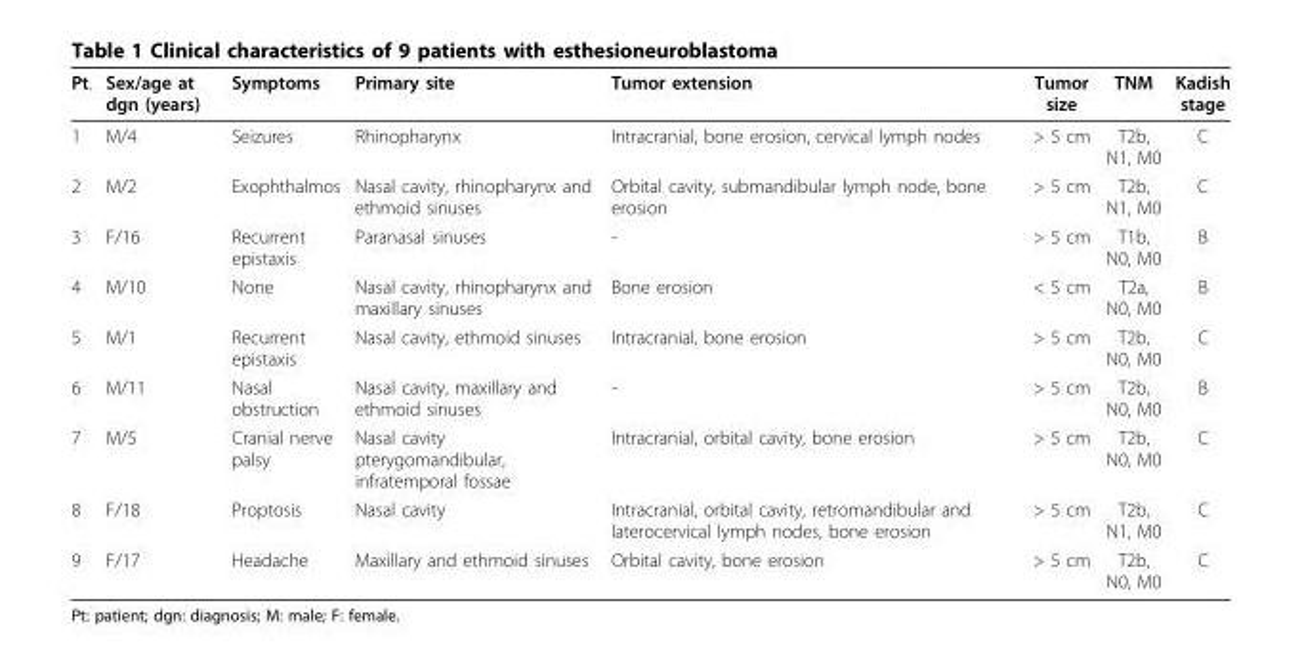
<table><thead><tr><td>Pt.</td><td>Sex/age at dgn (years)</td><td>Symptoms</td><td>Primary site</td><td>Tumor extension</td><td>Tumor size</td><td>TNM</td><td>Kadish stage</td></tr></thead><tbody><tr><td>1</td><td>M/4</td><td>Seizures</td><td>Rhinopharynx</td><td>Intracranial, bone erosion, cervical lymph nodes</td><td>&gt; 5 cm</td><td>T2b, N1, M0</td><td>C</td></tr><tr><td>2</td><td>M/2</td><td>Exophthalmos</td><td>Nasal cavity, rhinopharynx and ethmoid sinuses</td><td>Orbital cavity, submandibular lymph node, bone erosion</td><td>&gt; 5 cm</td><td>T2b, N1, M0</td><td>C</td></tr><tr><td>3</td><td>F/16</td><td>Recurrent epistaxis</td><td>Paranasal sinuses</td><td>-</td><td>&gt; 5 cm</td><td>T1b, N0, M0</td><td>B</td></tr><tr><td>4</td><td>M/10</td><td>None</td><td>Nasal cavity, rhinopharynx and maxillary sinuses</td><td>Bone erosion</td><td>&lt; 5 cm</td><td>T2a, N0, M0</td><td>B</td></tr><tr><td>5</td><td>M/1</td><td>Recurrent epistaxis</td><td>Nasal cavity, ethmoid sinuses</td><td>Intracranial, bone erosion</td><td>&gt; 5 cm</td><td>T2b, N0, M0</td><td>C</td></tr><tr><td>6</td><td>M/11</td><td>Nasal obstruction</td><td>Nasal cavity, maxillary and ethmoid sinuses</td><td>-</td><td>&gt; 5 cm</td><td>T2b, N0, M0</td><td>B</td></tr><tr><td>7</td><td>M/5</td><td>Cranial nerve palsy</td><td>Nasal cavity pterygomandibular, infratemporal fossae</td><td>Intracranial, orbital cavity, bone erosion</td><td>&gt; 5 cm</td><td>T2b, N0, M0</td><td>C</td></tr><tr><td>8</td><td>F/18</td><td>Proptosis</td><td>Nasal cavity</td><td>Intracranial, orbital cavity, retromandibular and laterocervical lymph nodes, bone erosion</td><td>&gt; 5 cm</td><td>T2b, N1, M0</td><td>C</td></tr><tr><td>9</td><td>F/17</td><td>Headache</td><td>Maxillary and ethmoid sinuses</td><td>Orbital cavity, bone erosion</td><td>&gt; 5 cm</td><td>T2b, N0, M0</td><td>C</td></tr></tbody></table>